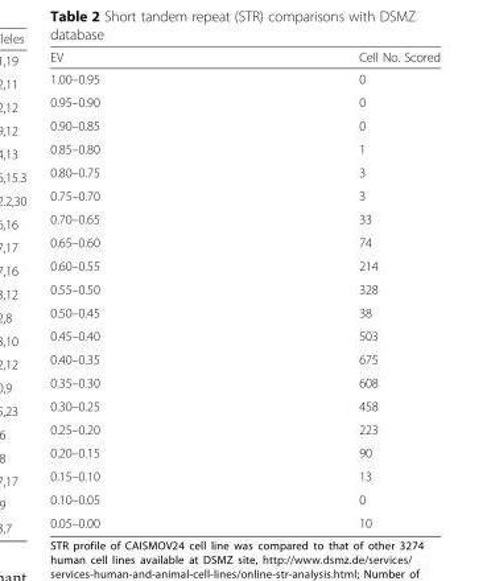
<table><thead><tr><td>EV</td><td>Cell No. Scored</td></tr></thead><tbody><tr><td>1.00–0.95</td><td>0</td></tr><tr><td>0.95–0.90</td><td>0</td></tr><tr><td>0.90–0.85</td><td>0</td></tr><tr><td>0.85–0.80</td><td>1</td></tr><tr><td>0.80–0.75</td><td>3</td></tr><tr><td>0.75–0.70</td><td>3</td></tr><tr><td>0.70–0.65</td><td>33</td></tr><tr><td>0.65–0.60</td><td>74</td></tr><tr><td>0.60–0.55</td><td>214</td></tr><tr><td>0.55–0.50</td><td>328</td></tr><tr><td>0.50–0.45</td><td>38</td></tr><tr><td>0.45–0.40</td><td>503</td></tr><tr><td>0.40–0.35</td><td>675</td></tr><tr><td>0.35–0.30</td><td>608</td></tr><tr><td>0.30–0.25</td><td>458</td></tr><tr><td>0.25–0.20</td><td>223</td></tr><tr><td>0.20–0.15</td><td>90</td></tr><tr><td>0.15–0.10</td><td>13</td></tr><tr><td>0.10–0.05</td><td>0</td></tr><tr><td>0.05–0.00</td><td>10</td></tr></tbody></table>